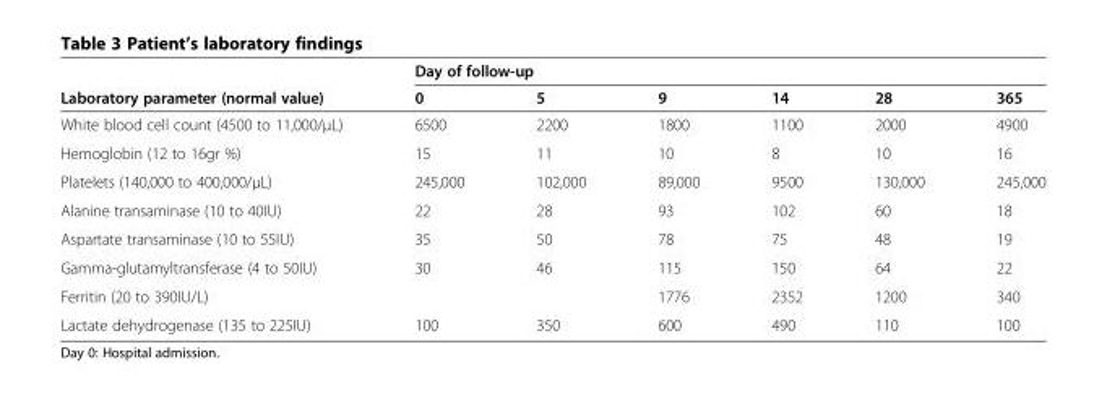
<table><thead><tr><td rowspan="2">Laboratory parameter (normal value)</td><td colspan="6">Day of follow-up</td></tr><tr><td>0</td><td>5</td><td>9</td><td>14</td><td>28</td><td>365</td></tr></thead><tbody><tr><td>White blood cell count (4500 to 11,000/μL)</td><td>6500</td><td>2200</td><td>1800</td><td>1100</td><td>2000</td><td>4900</td></tr><tr><td>Hemoglobin (12 to 16gr %)</td><td>15</td><td>11</td><td>10</td><td>8</td><td>10</td><td>16</td></tr><tr><td>Platelets (140,000 to 400,000/μL)</td><td>245,000</td><td>102,000</td><td>89,000</td><td>9500</td><td>130,000</td><td>245,000</td></tr><tr><td>Alanine transaminase (10 to 40IU)</td><td>22</td><td>28</td><td>93</td><td>102</td><td>60</td><td>18</td></tr><tr><td>Aspartate transaminase (10 to 55IU)</td><td>35</td><td>50</td><td>78</td><td>75</td><td>48</td><td>19</td></tr><tr><td>Gamma-glutamyltransferase (4 to 50IU)</td><td>30</td><td>46</td><td>115</td><td>150</td><td>64</td><td>22</td></tr><tr><td>Ferritin (20 to 390IU/L)</td><td></td><td></td><td>1776</td><td>2352</td><td>1200</td><td>340</td></tr><tr><td>Lactate dehydrogenase (135 to 225IU)</td><td>100</td><td>350</td><td>600</td><td>490</td><td>110</td><td>100</td></tr></tbody></table>